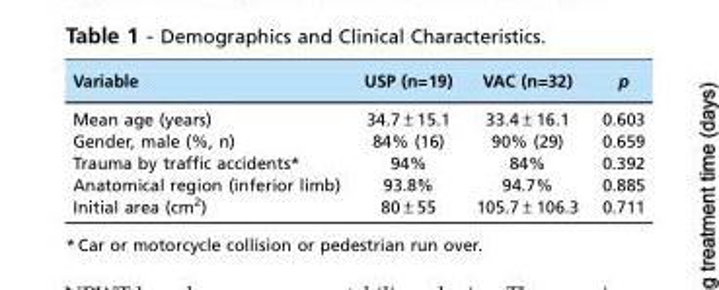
<table><thead><tr><td>Variable</td><td>USP (n=19)</td><td>VAC (n=32)</td><td>p</td></tr></thead><tbody><tr><td>Mean age (years)</td><td>34.7±15.1</td><td>33.4±16.1</td><td>0.603</td></tr><tr><td>Gender, male (%, n)</td><td>84% (16)</td><td>90% (29)</td><td>0.659</td></tr><tr><td>Trauma by traffic accidents*</td><td>94%</td><td>84%</td><td>0.392</td></tr><tr><td>Anatomical region (inferior limb)</td><td>93.8%</td><td>94.7%</td><td>0.885</td></tr><tr><td>Initial area (cm<sup>2</sup>)</td><td>80±55</td><td>105.7±106.3</td><td>0.711</td></tr></tbody></table>